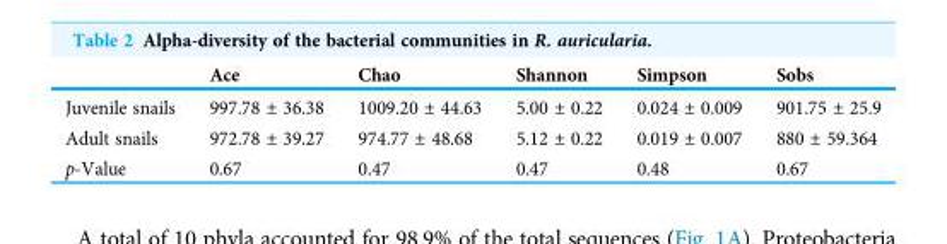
<table><thead><tr><td></td><td>Ace</td><td>Chao</td><td>Shannon</td><td>Simpson</td><td>Sobs</td></tr></thead><tbody><tr><td>Juvenile snails</td><td>997.78 ± 36.38</td><td>1009.20 ± 44.63</td><td>5.00 ± 0.22</td><td>0.024 ± 0.009</td><td>901.75 ± 25.9</td></tr><tr><td>Adult snails</td><td>972.78 ± 39.27</td><td>974.77 ± 48.68</td><td>5.12 ± 0.22</td><td>0.019 ± 0.007</td><td>880 ± 59.364</td></tr><tr><td>p-Value</td><td>0.67</td><td>0.47</td><td>0.47</td><td>0.48</td><td>0.67</td></tr></tbody></table>